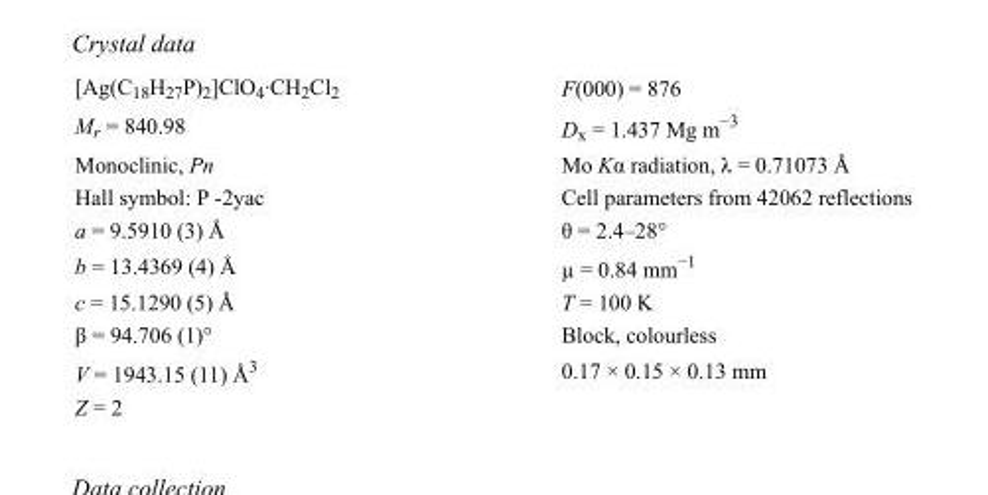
<table><tbody><tr><td>[Ag(C<sub>18</sub>H<sub>27</sub>P)<sub>2</sub>]ClO<sub>4</sub>·CH<sub>2</sub>Cl<sub>2</sub></td><td>F(000) = 876</td></tr><tr><td>M<sub>r</sub> = 840.98</td><td>D<sub>x</sub> = 1.437 Mg m<sup>−3</sup></td></tr><tr><td>Monoclinic, Pn</td><td>Mo Kα radiation, λ = 0.71073 Å</td></tr><tr><td>Hall symbol: P -2yac</td><td>Cell parameters from 42062 reflections</td></tr><tr><td>a = 9.5910 (3) Å</td><td>θ = 2.4–28°</td></tr><tr><td>b = 13.4369 (4) Å</td><td>µ = 0.84 mm<sup>−1</sup></td></tr><tr><td>c = 15.1290 (5) Å</td><td>T = 100 K</td></tr><tr><td>β = 94.706 (1)°</td><td>Block, colourless</td></tr><tr><td>V = 1943.15 (11) Å<sup>3</sup></td><td>0.17 × 0.15 × 0.13 mm</td></tr><tr><td>Z = 2</td><td></td></tr></tbody></table>